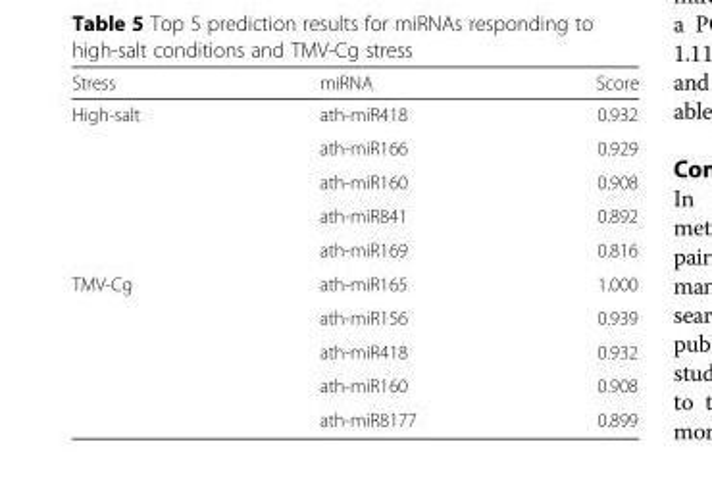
<table><thead><tr><td>Stress</td><td>miRNA</td><td>Score</td></tr></thead><tbody><tr><td rowspan="5">High-salt</td><td>ath-miR418</td><td>0.932</td></tr><tr><td>ath-miR166</td><td>0.929</td></tr><tr><td>ath-miR160</td><td>0.908</td></tr><tr><td>ath-miR841</td><td>0.892</td></tr><tr><td>ath-miR169</td><td>0.816</td></tr><tr><td rowspan="5">TMV-Cg</td><td>ath-miR165</td><td>1.000</td></tr><tr><td>ath-miR156</td><td>0.939</td></tr><tr><td>ath-miR418</td><td>0.932</td></tr><tr><td>ath-miR160</td><td>0.908</td></tr><tr><td>ath-miR8177</td><td>0.899</td></tr></tbody></table>